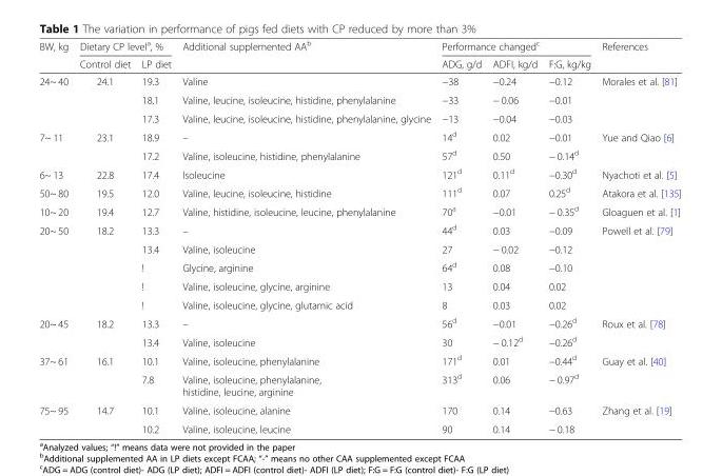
<table><thead><tr><td rowspan="2">BW, kg</td><td colspan="2">Dietary CP level<sup>a</sup>, %</td><td rowspan="2">Additional supplemented AA<sup>b</sup></td><td colspan="3">Performance changed<sup>c</sup></td><td rowspan="2">References</td></tr><tr><td>Control diet</td><td>LP diet</td><td>ADG, g/d</td><td>ADFI, kg/d</td><td>F:G, kg/kg</td></tr></thead><tbody><tr><td rowspan="3">24~ 40</td><td rowspan="3">24.1</td><td>19.3</td><td>Valine</td><td>−38</td><td>−0.24</td><td>−0.12</td><td rowspan="3">Morales et al. [81]</td></tr><tr><td>18.1</td><td>Valine, leucine, isoleucine, histidine, phenylalanine</td><td>−33</td><td>− 0.06</td><td>−0.01</td></tr><tr><td>17.3</td><td>Valine, leucine, isoleucine, histidine, phenylalanine, glycine</td><td>−13</td><td>−0.04</td><td>−0.03</td></tr><tr><td rowspan="2">7~ 11</td><td rowspan="2">23.1</td><td>18.9</td><td>–</td><td>14<sup>d</sup></td><td>0.02</td><td>−0.01</td><td rowspan="2">Yue and Qiao [6]</td></tr><tr><td>17.2</td><td>Valine, isoleucine, histidine, phenylalanine</td><td>57<sup>d</sup></td><td>0.50</td><td>− 0.14<sup>d</sup></td></tr><tr><td>6~ 13</td><td>22.8</td><td>17.4</td><td>Isoleucine</td><td>121<sup>d</sup></td><td>0.11<sup>d</sup></td><td>−0.30<sup>d</sup></td><td>Nyachoti et al. [5]</td></tr><tr><td>50~ 80</td><td>19.5</td><td>12.0</td><td>Valine, leucine, isoleucine, histidine</td><td>111<sup>d</sup></td><td>0.07</td><td>0.25<sup>d</sup></td><td>Atakora et al. [135]</td></tr><tr><td>10~ 20</td><td>19.4</td><td>12.7</td><td>Valine, histidine, isoleucine, leucine, phenylalanine</td><td>70<sup>a</sup></td><td>−0.01</td><td>− 0.35<sup>d</sup></td><td>Gloaguen et al. [1]</td></tr><tr><td rowspan="5">20~ 50</td><td rowspan="5">18.2</td><td>13.3</td><td>–</td><td>44<sup>d</sup></td><td>0.03</td><td>−0.09</td><td rowspan="5">Powell et al. [79]</td></tr><tr><td>13.4</td><td>Valine, isoleucine</td><td>27</td><td>− 0.02</td><td>−0.12</td></tr><tr><td>!</td><td>Glycine, arginine</td><td>64<sup>d</sup></td><td>0.08</td><td>−0.10</td></tr><tr><td>!</td><td>Valine, isoleucine, glycine, arginine</td><td>13</td><td>0.04</td><td>0.02</td></tr><tr><td>!</td><td>Valine, isoleucine, glycine, glutamic acid</td><td>8</td><td>0.03</td><td>0.02</td></tr><tr><td rowspan="2">20~ 45</td><td rowspan="2">18.2</td><td>13.3</td><td>–</td><td>56<sup>d</sup></td><td>−0.01</td><td>−0.26<sup>d</sup></td><td rowspan="2">Roux et al. [78]</td></tr><tr><td>13.4</td><td>Valine, isoleucine</td><td>30</td><td>− 0.12<sup>d</sup></td><td>−0.26<sup>d</sup></td></tr><tr><td rowspan="2">37~ 61</td><td rowspan="2">16.1</td><td>10.1</td><td>Valine, isoleucine, phenylalanine</td><td>171<sup>d</sup></td><td>0.01</td><td>−0.44<sup>d</sup></td><td rowspan="2">Guay et al. [40]</td></tr><tr><td>7.8</td><td>Valine, isoleucine, phenylalanine, histidine, leucine, arginine</td><td>313<sup>d</sup></td><td>0.06</td><td>− 0.97<sup>d</sup></td></tr><tr><td rowspan="2">75~ 95</td><td rowspan="2">14.7</td><td>10.1</td><td>Valine, isoleucine, alanine</td><td>170</td><td>0.14</td><td>−0.63</td><td rowspan="2">Zhang et al. [19]</td></tr><tr><td>10.2</td><td>Valine, isoleucine, leucine</td><td>90</td><td>0.14</td><td>− 0.18</td></tr></tbody></table>